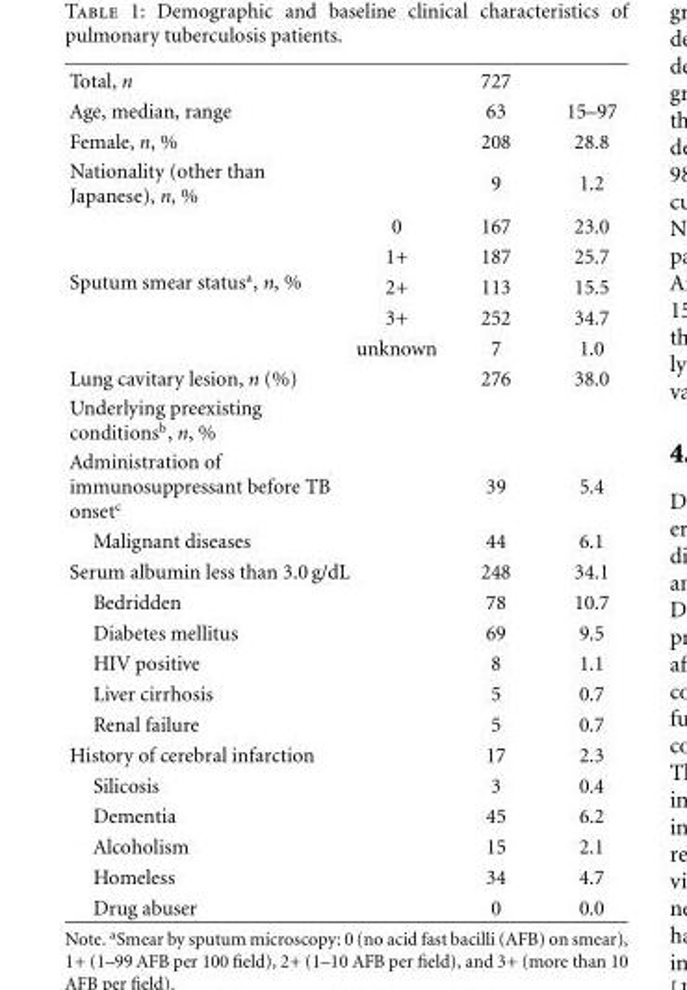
<table><tbody><tr><td>Total, n</td><td></td><td>727</td><td></td></tr><tr><td>Age, median, range</td><td></td><td>63</td><td>15–97</td></tr><tr><td>Female, n, %</td><td></td><td>208</td><td>28.8</td></tr><tr><td>Nationality (other than Japanese), n, %</td><td></td><td>9</td><td>1.2</td></tr><tr><td rowspan="5">Sputum smear status<sup>a</sup>, n, %</td><td>0</td><td>167</td><td>23.0</td></tr><tr><td>1+</td><td>187</td><td>25.7</td></tr><tr><td>2+</td><td>113</td><td>15.5</td></tr><tr><td>3+</td><td>252</td><td>34.7</td></tr><tr><td>unknown</td><td>7</td><td>1.0</td></tr><tr><td>Lung cavitary lesion, n (%)</td><td></td><td>276</td><td>38.0</td></tr><tr><td colspan="4">Underlying preexisting conditions<sup>b</sup>, n, %</td></tr><tr><td>Administration of immunosuppressant before TB onset<sup>c</sup></td><td></td><td>39</td><td>5.4</td></tr><tr><td>Malignant diseases</td><td></td><td>44</td><td>6.1</td></tr><tr><td>Serum albumin less than 3.0 g/dL</td><td></td><td>248</td><td>34.1</td></tr><tr><td>Bedridden</td><td></td><td>78</td><td>10.7</td></tr><tr><td>Diabetes mellitus</td><td></td><td>69</td><td>9.5</td></tr><tr><td>HIV positive</td><td></td><td>8</td><td>1.1</td></tr><tr><td>Liver cirrhosis</td><td></td><td>5</td><td>0.7</td></tr><tr><td>Renal failure</td><td></td><td>5</td><td>0.7</td></tr><tr><td>History of cerebral infarction</td><td></td><td>17</td><td>2.3</td></tr><tr><td>Silicosis</td><td></td><td>3</td><td>0.4</td></tr><tr><td>Dementia</td><td></td><td>45</td><td>6.2</td></tr><tr><td>Alcoholism</td><td></td><td>15</td><td>2.1</td></tr><tr><td>Homeless</td><td></td><td>34</td><td>4.7</td></tr><tr><td>Drug abuser</td><td></td><td>0</td><td>0.0</td></tr></tbody></table>